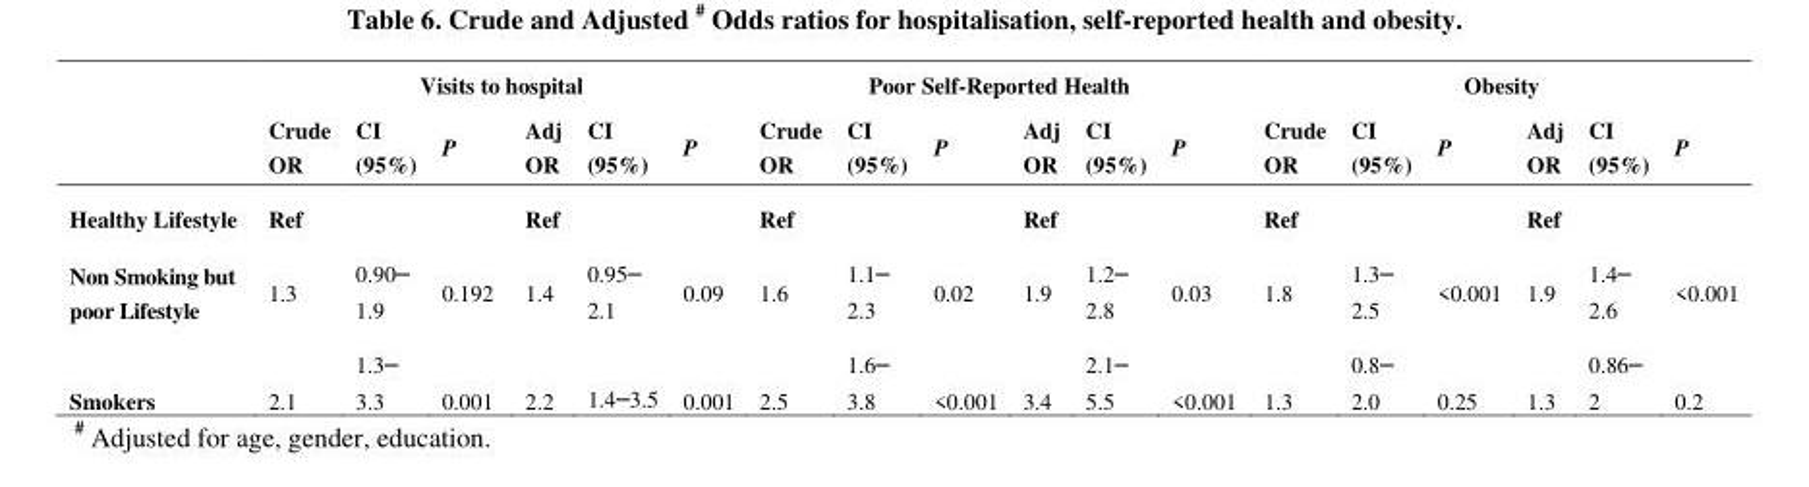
<table><thead><tr><td rowspan="2"></td><td colspan="6">Visits to hospital</td><td colspan="6">Poor Self-Reported Health</td><td colspan="6">Obesity</td></tr><tr><td>Crude OR</td><td>CI (95%)</td><td>P</td><td>Adj OR</td><td>CI (95%)</td><td>P</td><td>Crude OR</td><td>CI (95%)</td><td>P</td><td>Adj OR</td><td>CI (95%)</td><td>P</td><td>Crude OR</td><td>CI (95%)</td><td>P</td><td>Adj OR</td><td>CI (95%)</td><td>P</td></tr></thead><tbody><tr><td>Healthy Lifestyle</td><td>Ref</td><td></td><td></td><td>Ref</td><td></td><td></td><td>Ref</td><td></td><td></td><td>Ref</td><td></td><td></td><td>Ref</td><td></td><td></td><td>Ref</td><td></td><td></td></tr><tr><td>Non Smoking but poor Lifestyle</td><td>1.3</td><td>0.90– 1.9</td><td>0.192</td><td>1.4</td><td>0.95– 2.1</td><td>0.09</td><td>1.6</td><td>1.1– 2.3</td><td>0.02</td><td>1.9</td><td>1.2– 2.8</td><td>0.03</td><td>1.8</td><td>1.3– 2.5</td><td>&lt;0.001</td><td>1.9</td><td>1.4– 2.6</td><td>&lt;0.001</td></tr><tr><td>Smokers</td><td>2.1</td><td>1.3– 3.3</td><td>0.001</td><td>2.2</td><td>1.4–3.5</td><td>0.001</td><td>2.5</td><td>1.6– 3.8</td><td>&lt;0.001</td><td>3.4</td><td>2.1– 5.5</td><td>&lt;0.001</td><td>1.3</td><td>0.8– 2.0</td><td>0.25</td><td>1.3</td><td>0.86– 2</td><td>0.2</td></tr></tbody></table>